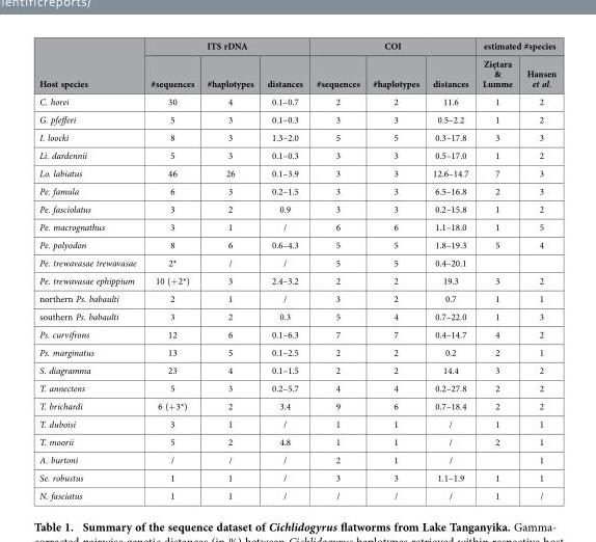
<table><thead><tr><td rowspan="2">Host species</td><td colspan="3">ITS rDNA</td><td colspan="3">COI</td><td colspan="2">estimated #species</td></tr><tr><td>#sequences</td><td>#haplotypes</td><td>distances</td><td>#sequences</td><td>#haplotypes</td><td>distances</td><td>Ziętara &amp; Lumme</td><td>Hansen et al.</td></tr></thead><tbody><tr><td>C. horei</td><td>30</td><td>4</td><td>0.1–0.7</td><td>2</td><td>2</td><td>11.6</td><td>1</td><td>2</td></tr><tr><td>G. pfefferi</td><td>5</td><td>3</td><td>0.1–0.3</td><td>3</td><td>3</td><td>0.5–2.2</td><td>1</td><td>2</td></tr><tr><td>I. loocki</td><td>8</td><td>3</td><td>1.3–2.0</td><td>5</td><td>5</td><td>0.3–17.8</td><td>3</td><td>3</td></tr><tr><td>Li. dardennii</td><td>5</td><td>3</td><td>0.1–0.3</td><td>3</td><td>3</td><td>0.5–17.0</td><td>1</td><td>2</td></tr><tr><td>Lo. labiatus</td><td>46</td><td>26</td><td>0.1–3.9</td><td>3</td><td>3</td><td>12.6–14.7</td><td>7</td><td>3</td></tr><tr><td>Pe. famula</td><td>6</td><td>3</td><td>0.2–1.5</td><td>3</td><td>3</td><td>6.5–16.8</td><td>2</td><td>3</td></tr><tr><td>Pe. fasciolatus</td><td>3</td><td>2</td><td>0.9</td><td>3</td><td>3</td><td>0.2–15.8</td><td>1</td><td>2</td></tr><tr><td>Pe. macrognathus</td><td>3</td><td>1</td><td>/</td><td>6</td><td>6</td><td>1.1–18.0</td><td>1</td><td>5</td></tr><tr><td>Pe. polyodon</td><td>8</td><td>6</td><td>0.6–4.3</td><td>5</td><td>5</td><td>1.8–19.3</td><td>5</td><td>4</td></tr><tr><td>Pe. trewavasae trewavasae</td><td>2*</td><td>/</td><td>/</td><td>5</td><td>5</td><td>0.4–20.1</td><td></td><td></td></tr><tr><td>Pe. trewavasae ephippium</td><td>10 (+ 2*)</td><td>3</td><td>2.4–3.2</td><td>2</td><td>2</td><td>19.3</td><td>3</td><td>2</td></tr><tr><td>northern Ps. babaulti</td><td>2</td><td>1</td><td>/</td><td>3</td><td>2</td><td>0.7</td><td>1</td><td>1</td></tr><tr><td>southern Ps. babaulti</td><td>3</td><td>2</td><td>0.3</td><td>5</td><td>4</td><td>0.7–22.0</td><td>1</td><td>3</td></tr><tr><td>Ps. curvifrons</td><td>12</td><td>6</td><td>0.1–6.3</td><td>7</td><td>7</td><td>0.4–14.7</td><td>4</td><td>2</td></tr><tr><td>Ps. marginatus</td><td>13</td><td>5</td><td>0.1–2.5</td><td>2</td><td>2</td><td>0.2</td><td>2</td><td>1</td></tr><tr><td>S. diagramma</td><td>23</td><td>4</td><td>0.1–1.5</td><td>2</td><td>2</td><td>14.4</td><td>3</td><td>2</td></tr><tr><td>T. annectens</td><td>5</td><td>3</td><td>0.2–5.7</td><td>4</td><td>4</td><td>0.2–27.8</td><td>2</td><td>2</td></tr><tr><td>T. brichardi</td><td>6 (+ 3*)</td><td>2</td><td>3.4</td><td>9</td><td>6</td><td>0.7–18.4</td><td>2</td><td>2</td></tr><tr><td>T. duboisi</td><td>3</td><td>1</td><td>/</td><td>1</td><td>1</td><td>/</td><td>1</td><td>1</td></tr><tr><td>T. moorii</td><td>5</td><td>2</td><td>4.8</td><td>1</td><td>1</td><td>/</td><td>2</td><td>1</td></tr><tr><td>A. burtoni</td><td>/</td><td>/</td><td>/</td><td>2</td><td>1</td><td>/</td><td></td><td>1</td></tr><tr><td>Se. robustus</td><td>1</td><td>1</td><td>/</td><td>3</td><td>3</td><td>1.1–1.9</td><td>1</td><td>1</td></tr><tr><td>N. fasciatus</td><td>1</td><td>1</td><td>/</td><td>/</td><td>/</td><td>/</td><td>1</td><td>/</td></tr></tbody></table>